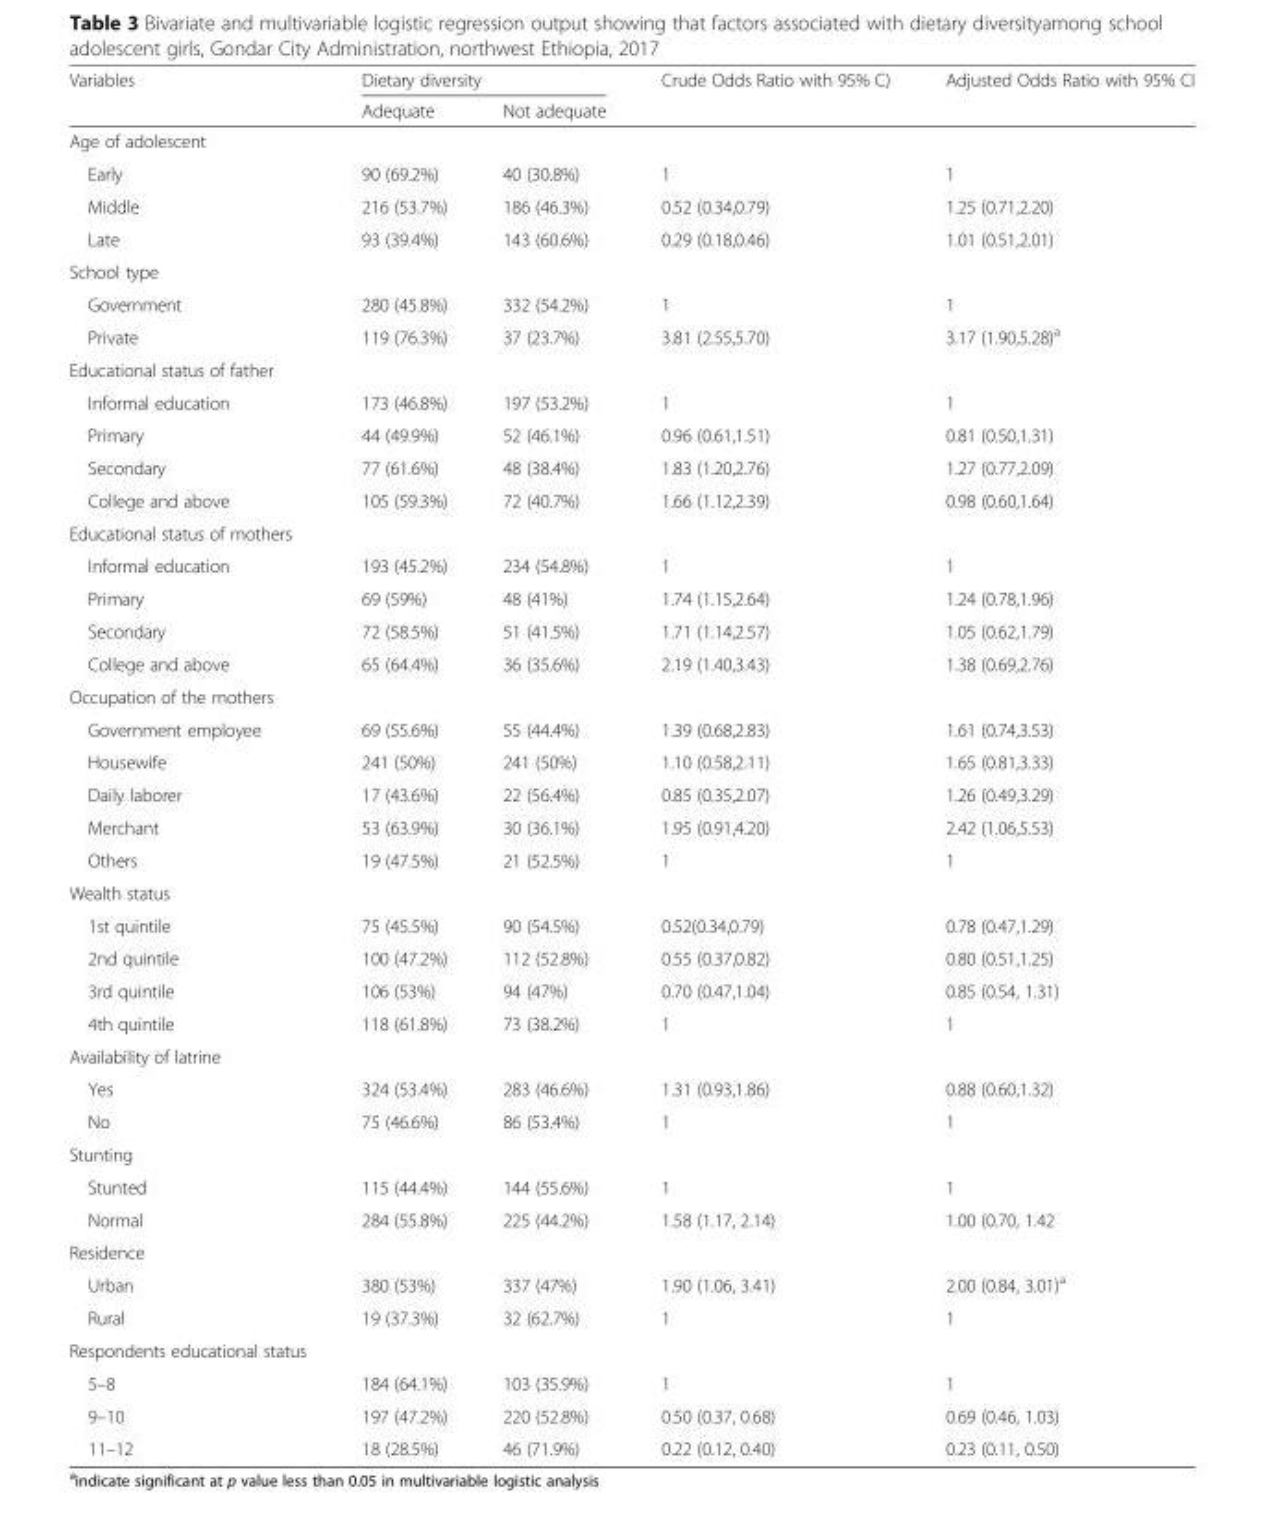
<table><thead><tr><td rowspan="2">Variables</td><td colspan="2">Dietary diversity</td><td rowspan="2">Crude Odds Ratio with 95% C)</td><td rowspan="2">Adjusted Odds Ratio with 95% CI</td></tr><tr><td>Adequate</td><td>Not adequate</td></tr></thead><tbody><tr><td colspan="5">Age of adolescent</td></tr><tr><td>Early</td><td>90 (69.2%)</td><td>40 (30.8%)</td><td>1</td><td>1</td></tr><tr><td>Middle</td><td>216 (53.7%)</td><td>186 (46.3%)</td><td>0.52 (0.34,0.79)</td><td>1.25 (0.71,2.20)</td></tr><tr><td>Late</td><td>93 (39.4%)</td><td>143 (60.6%)</td><td>0.29 (0.18,0.46)</td><td>1.01 (0.51,2.01)</td></tr><tr><td colspan="5">School type</td></tr><tr><td>Government</td><td>280 (45.8%)</td><td>332 (54.2%)</td><td>1</td><td>1</td></tr><tr><td>Private</td><td>119 (76.3%)</td><td>37 (23.7%)</td><td>3.81 (2.55,5.70)</td><td>3.17 (1.90,5.28)<sup>a</sup></td></tr><tr><td colspan="5">Educational status of father</td></tr><tr><td>Informal education</td><td>173 (46.8%)</td><td>197 (53.2%)</td><td>1</td><td>1</td></tr><tr><td>Primary</td><td>44 (49.9%)</td><td>52 (46.1%)</td><td>0.96 (0.61,1.51)</td><td>0.81 (0.50,1.31)</td></tr><tr><td>Secondary</td><td>77 (61.6%)</td><td>48 (38.4%)</td><td>1.83 (1.20,2.76)</td><td>1.27 (0.77,2.09)</td></tr><tr><td>College and above</td><td>105 (59.3%)</td><td>72 (40.7%)</td><td>1.66 (1.12,2.39)</td><td>0.98 (0.60,1.64)</td></tr><tr><td colspan="5">Educational status of mothers</td></tr><tr><td>Informal education</td><td>193 (45.2%)</td><td>234 (54.8%)</td><td>1</td><td>1</td></tr><tr><td>Primary</td><td>69 (59%)</td><td>48 (41%)</td><td>1.74 (1.15,2.64)</td><td>1.24 (0.78,1.96)</td></tr><tr><td>Secondary</td><td>72 (58.5%)</td><td>51 (41.5%)</td><td>1.71 (1.14,2.57)</td><td>1.05 (0.62,1.79)</td></tr><tr><td>College and above</td><td>65 (64.4%)</td><td>36 (35.6%)</td><td>2.19 (1.40,3.43)</td><td>1.38 (0.69,2.76)</td></tr><tr><td colspan="5">Occupation of the mothers</td></tr><tr><td>Government employee</td><td>69 (55.6%)</td><td>55 (44.4%)</td><td>1.39 (0.68,2.83)</td><td>1.61 (0.74,3.53)</td></tr><tr><td>Housewife</td><td>241 (50%)</td><td>241 (50%)</td><td>1.10 (0.58,2.11)</td><td>1.65 (0.81,3.33)</td></tr><tr><td>Daily laborer</td><td>17 (43.6%)</td><td>22 (56.4%)</td><td>0.85 (0.35,2.07)</td><td>1.26 (0.49,3.29)</td></tr><tr><td>Merchant</td><td>53 (63.9%)</td><td>30 (36.1%)</td><td>1.95 (0.91,4.20)</td><td>2.42 (1.06,5.53)</td></tr><tr><td>Others</td><td>19 (47.5%)</td><td>21 (52.5%)</td><td>1</td><td>1</td></tr><tr><td colspan="5">Wealth status</td></tr><tr><td>1st quintile</td><td>75 (45.5%)</td><td>90 (54.5%)</td><td>0.52(0.34,0.79)</td><td>0.78 (0.47,1.29)</td></tr><tr><td>2nd quintile</td><td>100 (47.2%)</td><td>112 (52.8%)</td><td>0.55 (0.37,0.82)</td><td>0.80 (0.51,1.25)</td></tr><tr><td>3rd quintile</td><td>106 (53%)</td><td>94 (47%)</td><td>0.70 (0.47,1.04)</td><td>0.85 (0.54, 1.31)</td></tr><tr><td>4th quintile</td><td>118 (61.8%)</td><td>73 (38.2%)</td><td>1</td><td>1</td></tr><tr><td colspan="5">Availability of latrine</td></tr><tr><td>Yes</td><td>324 (53.4%)</td><td>283 (46.6%)</td><td>1.31 (0.93,1.86)</td><td>0.88 (0.60,1.32)</td></tr><tr><td>No</td><td>75 (46.6%)</td><td>86 (53.4%)</td><td>1</td><td>1</td></tr><tr><td colspan="5">Stunting</td></tr><tr><td>Stunted</td><td>115 (44.4%)</td><td>144 (55.6%)</td><td>1</td><td>1</td></tr><tr><td>Normal</td><td>284 (55.8%)</td><td>225 (44.2%)</td><td>1.58 (1.17, 2.14)</td><td>1.00 (0.70, 1.42</td></tr><tr><td colspan="5">Residence</td></tr><tr><td>Urban</td><td>380 (53%)</td><td>337 (47%)</td><td>1.90 (1.06, 3.41)</td><td>2.00 (0.84, 3.01)<sup>a</sup></td></tr><tr><td>Rural</td><td>19 (37.3%)</td><td>32 (62.7%)</td><td>1</td><td>1</td></tr><tr><td colspan="5">Respondents educational status</td></tr><tr><td>5–8</td><td>184 (64.1%)</td><td>103 (35.9%)</td><td>1</td><td>1</td></tr><tr><td>9–10</td><td>197 (47.2%)</td><td>220 (52.8%)</td><td>0.50 (0.37, 0.68)</td><td>0.69 (0.46, 1.03)</td></tr><tr><td>11–12</td><td>18 (28.5%)</td><td>46 (71.9%)</td><td>0.22 (0.12, 0.40)</td><td>0.23 (0.11, 0.50)</td></tr></tbody></table>